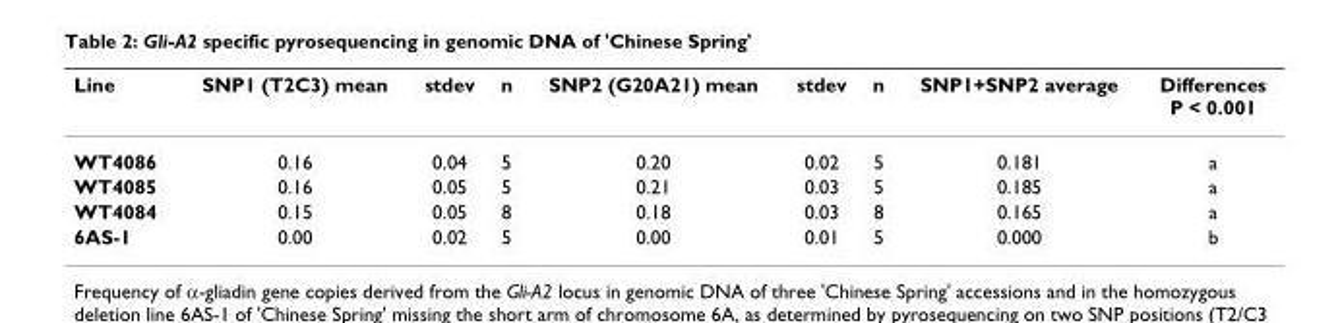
<table><thead><tr><td>Line</td><td>SNP1 (T2C3) mean</td><td>stdev</td><td>n</td><td>SNP2 (G20A21) mean</td><td>stdev</td><td>n</td><td>SNP1+SNP2 average</td><td>Differences P &lt; 0.001</td></tr></thead><tbody><tr><td>WT4086</td><td>0.16</td><td>0.04</td><td>5</td><td>0.20</td><td>0.02</td><td>5</td><td>0.181</td><td>a</td></tr><tr><td>WT4085</td><td>0.16</td><td>0.05</td><td>5</td><td>0.21</td><td>0.03</td><td>5</td><td>0.185</td><td>a</td></tr><tr><td>WT4084</td><td>0.15</td><td>0.05</td><td>8</td><td>0.18</td><td>0.03</td><td>8</td><td>0.165</td><td>a</td></tr><tr><td>6AS-1</td><td>0.00</td><td>0.02</td><td>5</td><td>0.00</td><td>0.01</td><td>5</td><td>0.000</td><td>b</td></tr></tbody></table>